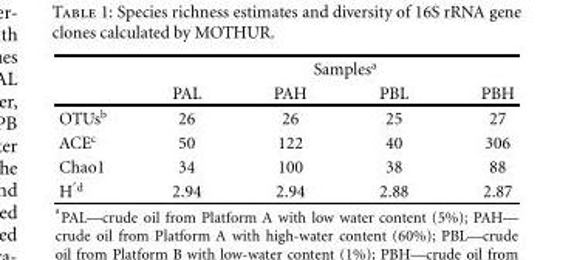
<table><thead><tr><td rowspan="2"></td><td colspan="4">Samples<sup>a</sup></td></tr><tr><td>PAL</td><td>PAH</td><td>PBL</td><td>PBH</td></tr></thead><tbody><tr><td>OTUs<sup>b</sup></td><td>26</td><td>26</td><td>25</td><td>27</td></tr><tr><td>ACE<sup>c</sup></td><td>50</td><td>122</td><td>40</td><td>306</td></tr><tr><td>Chao1</td><td>34</td><td>100</td><td>38</td><td>88</td></tr><tr><td>H <sup>′d</sup></td><td>2.94</td><td>2.94</td><td>2.88</td><td>2.87</td></tr></tbody></table>